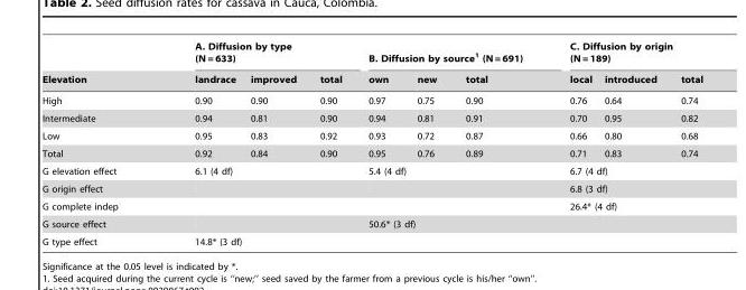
<table><thead><tr><td rowspan="2">Elevation</td><td colspan="3">A. Diffusion by type (N = 633)</td><td colspan="3">B. Diffusion by source<sup>1</sup> (N = 691)</td><td colspan="3">C. Diffusion by origin (N = 189)</td></tr><tr><td>landrace</td><td>improved</td><td>total</td><td>own</td><td>new</td><td>total</td><td>local</td><td>introduced</td><td>total</td></tr></thead><tbody><tr><td>High</td><td>0.90</td><td>0.90</td><td>0.90</td><td>0.97</td><td>0.75</td><td>0.90</td><td>0.76</td><td>0.64</td><td>0.74</td></tr><tr><td>Intermediate</td><td>0.94</td><td>0.81</td><td>0.90</td><td>0.94</td><td>0.81</td><td>0.91</td><td>0.70</td><td>0.95</td><td>0.82</td></tr><tr><td>Low</td><td>0.95</td><td>0.83</td><td>0.92</td><td>0.93</td><td>0.72</td><td>0.87</td><td>0.66</td><td>0.80</td><td>0.68</td></tr><tr><td>Total</td><td>0.92</td><td>0.84</td><td>0.90</td><td>0.95</td><td>0.76</td><td>0.89</td><td>0.71</td><td>0.83</td><td>0.74</td></tr><tr><td>G elevation effect</td><td colspan="3">6.1 (4 df)</td><td colspan="3">5.4 (4 df)</td><td colspan="3">6.7 (4 df)</td></tr><tr><td>G origin effect</td><td colspan="3"></td><td colspan="3"></td><td colspan="3">6.8 (3 df)</td></tr><tr><td>G complete indep</td><td colspan="3"></td><td colspan="3"></td><td colspan="3">26.4* (4 df)</td></tr><tr><td>G source effect</td><td colspan="3"></td><td colspan="3">50.6* (3 df)</td><td colspan="3"></td></tr><tr><td>G type effect</td><td colspan="3">14.8* (3 df)</td><td colspan="3"></td><td colspan="3"></td></tr></tbody></table>